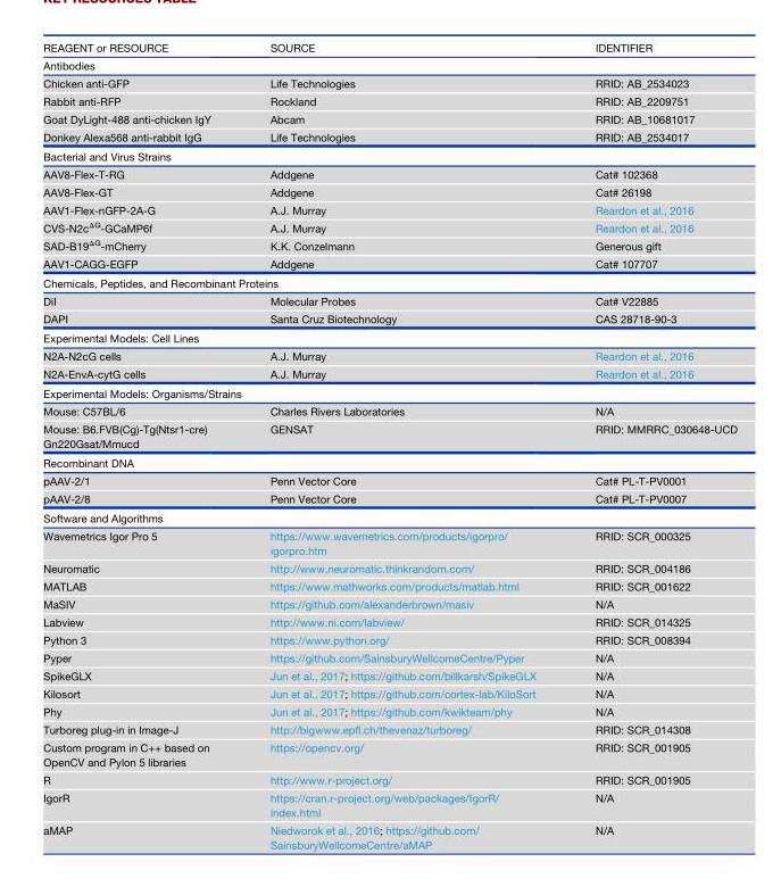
<table><thead><tr><td>REAGENT or RESOURCE</td><td>SOURCE</td><td>IDENTIFIER</td></tr></thead><tbody><tr><td colspan="3">Antibodies</td></tr><tr><td>Chicken anti-GFP</td><td>Life Technologies</td><td>RRID: AB_2534023</td></tr><tr><td>Rabbit anti-RFP</td><td>Rockland</td><td>RRID: AB_2209751</td></tr><tr><td>Goat DyLight-488 anti-chicken IgY</td><td>Abcam</td><td>RRID: AB_10681017</td></tr><tr><td>Donkey Alexa568 anti-rabbit IgG</td><td>Life Technologies</td><td>RRID: AB_2534017</td></tr><tr><td colspan="3">Bacterial and Virus Strains</td></tr><tr><td>AAV8-Flex-T-RG</td><td>Addgene</td><td>Cat# 102368</td></tr><tr><td>AAV8-Flex-GT</td><td>Addgene</td><td>Cat# 26198</td></tr><tr><td>AAV1-Flex-nGFP-2A-G</td><td>A.J. Murray</td><td>Reardon et al., 2016</td></tr><tr><td>CVS-N2c<sup>ΔG</sup>-GCaMP6f</td><td>A.J. Murray</td><td>Reardon et al., 2016</td></tr><tr><td>SAD-B19<sup>ΔG</sup>-mCherry</td><td>K.K. Conzelmann</td><td>Generous gift</td></tr><tr><td>AAV1-CAGG-EGFP</td><td>Addgene</td><td>Cat# 107707</td></tr><tr><td colspan="3">Chemicals, Peptides, and Recombinant Proteins</td></tr><tr><td>DiI</td><td>Molecular Probes</td><td>Cat# V22885</td></tr><tr><td>DAPI</td><td>Santa Cruz Biotechnology</td><td>CAS 28718-90-3</td></tr><tr><td colspan="3">Experimental Models: Cell Lines</td></tr><tr><td>N2A-N2cG cells</td><td>A.J. Murray</td><td>Reardon et al., 2016</td></tr><tr><td>N2A-EnvA-cytG cells</td><td>A.J. Murray</td><td>Reardon et al., 2016</td></tr><tr><td colspan="3">Experimental Models: Organisms/Strains</td></tr><tr><td>Mouse: C57BL/6</td><td>Charles Rivers Laboratories</td><td>N/A</td></tr><tr><td>Mouse: B6.FVB(Cg)-Tg(Ntsr1-cre) Gn220Gsat/Mmucd</td><td>GENSAT</td><td>RRID: MMRRC_030648-UCD</td></tr><tr><td colspan="3">Recombinant DNA</td></tr><tr><td>pAAV-2/1</td><td>Penn Vector Core</td><td>Cat# PL-T-PV0001</td></tr><tr><td>pAAV-2/8</td><td>Penn Vector Core</td><td>Cat# PL-T-PV0007</td></tr><tr><td colspan="3">Software and Algorithms</td></tr><tr><td>Wavemetrics Igor Pro 5</td><td>https://www.wavemetrics.com/products/igorpro/ igorpro.htm</td><td>RRID: SCR_000325</td></tr><tr><td>Neuromatic</td><td>http://www.neuromatic.thinkrandom.com/</td><td>RRID: SCR_004186</td></tr><tr><td>MATLAB</td><td>https://www.mathworks.com/products/matlab.html</td><td>RRID: SCR_001622</td></tr><tr><td>MaSIV</td><td>https://github.com/alexanderbrown/masiv</td><td>N/A</td></tr><tr><td>Labview</td><td>http://www.ni.com/labview/</td><td>RRID: SCR_014325</td></tr><tr><td>Python 3</td><td>https://www.python.org/</td><td>RRID: SCR_008394</td></tr><tr><td>Pyper</td><td>https://github.com/SainsburyWellcomeCentre/Pyper</td><td>N/A</td></tr><tr><td>SpikeGLX</td><td>Jun et al., 2017; https://github.com/billkarsh/SpikeGLX</td><td>N/A</td></tr><tr><td>Kilosort</td><td>Jun et al., 2017; https://github.com/cortex-lab/KiloSort</td><td>N/A</td></tr><tr><td>Phy</td><td>Jun et al., 2017; https://github.com/kwikteam/phy</td><td>N/A</td></tr><tr><td>Turboreg plug-in in Image-J</td><td>http://bigwww.epfl.ch/thevenaz/turboreg/</td><td>RRID: SCR_014308</td></tr><tr><td>Custom program in C++ based on OpenCV and Pylon 5 libraries</td><td>https://opencv.org/</td><td>RRID: SCR_001905</td></tr><tr><td>R</td><td>http://www.r-project.org/</td><td>RRID: SCR_001905</td></tr><tr><td>IgorR</td><td>https://cran.r-project.org/web/packages/IgorR/ index.html</td><td>N/A</td></tr><tr><td>aMAP</td><td>Niedworok et al., 2016; https://github.com/ SainsburyWellcomeCentre/aMAP</td><td>N/A</td></tr></tbody></table>